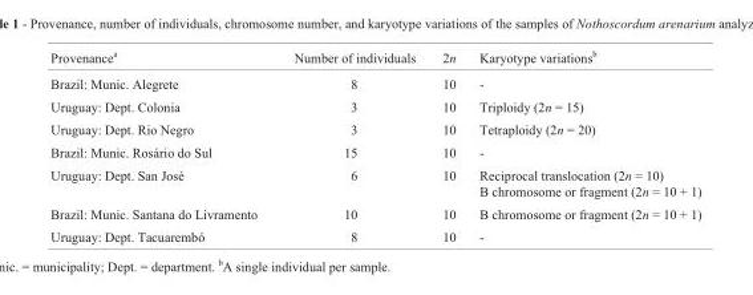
<table><thead><tr><td>Provenance<sup>a</sup></td><td>Number of individuals</td><td>2n</td><td>Karyotype variations<sup>b</sup></td></tr></thead><tbody><tr><td>Brazil: Munic. Alegrete</td><td>8</td><td>10</td><td>-</td></tr><tr><td>Uruguay: Dept. Colonia</td><td>3</td><td>10</td><td>Triploidy (2n = 15)</td></tr><tr><td>Uruguay: Dept. Rio Negro</td><td>3</td><td>10</td><td>Tetraploidy (2n = 20)</td></tr><tr><td>Brazil: Munic. Rosário do Sul</td><td>15</td><td>10</td><td>-</td></tr><tr><td>Uruguay: Dept. San José</td><td>6</td><td>10</td><td>Reciprocal translocation (2n = 10) B chromosome or fragment (2n = 10 + 1)</td></tr><tr><td>Brazil: Munic. Santana do Livramento</td><td>10</td><td>10</td><td>B chromosome or fragment (2n = 10 + 1)</td></tr><tr><td>Uruguay: Dept. Tacuarembó</td><td>8</td><td>10</td><td>-</td></tr></tbody></table>